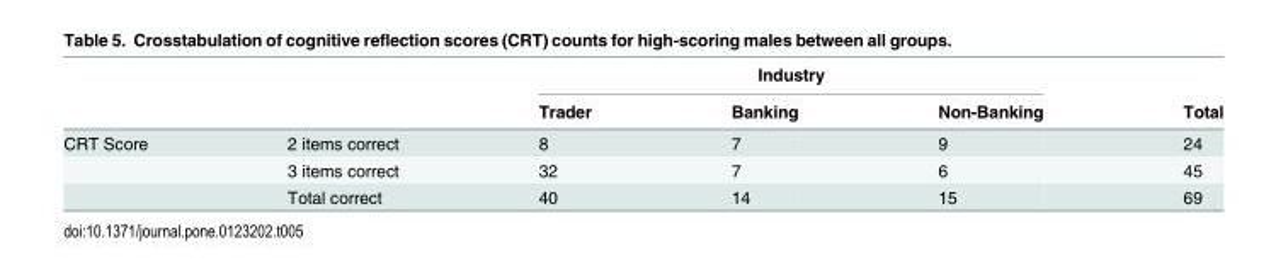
<table><thead><tr><td rowspan="2"></td><td rowspan="2"></td><td colspan="3">Industry</td><td rowspan="2">Total</td></tr><tr><td>Trader</td><td>Banking</td><td>Non-Banking</td></tr></thead><tbody><tr><td rowspan="3">CRT Score</td><td>2 items correct</td><td>8</td><td>7</td><td>9</td><td>24</td></tr><tr><td>3 items correct</td><td>32</td><td>7</td><td>6</td><td>45</td></tr><tr><td>Total correct</td><td>40</td><td>14</td><td>15</td><td>69</td></tr></tbody></table>